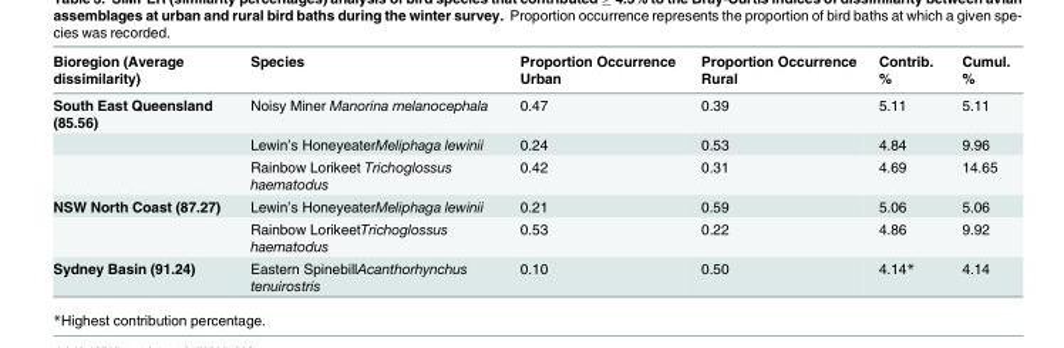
<table><thead><tr><td>Bioregion (Average dissimilarity)</td><td>Species</td><td>Proportion Occurrence Urban</td><td>Proportion Occurrence Rural</td><td>Contrib. %</td><td>Cumul. %</td></tr></thead><tbody><tr><td rowspan="3">South East Queensland (85.56)</td><td>Noisy Miner Manorina melanocephala</td><td>0.47</td><td>0.39</td><td>5.11</td><td>5.11</td></tr><tr><td>Lewin’s HoneyeaterMeliphaga lewinii</td><td>0.24</td><td>0.53</td><td>4.84</td><td>9.96</td></tr><tr><td>Rainbow Lorikeet Trichoglossus haematodus</td><td>0.42</td><td>0.31</td><td>4.69</td><td>14.65</td></tr><tr><td rowspan="2">NSW North Coast (87.27)</td><td>Lewin’s HoneyeaterMeliphaga lewinii</td><td>0.21</td><td>0.59</td><td>5.06</td><td>5.06</td></tr><tr><td>Rainbow LorikeetTrichoglossus haematodus</td><td>0.53</td><td>0.22</td><td>4.86</td><td>9.92</td></tr><tr><td>Sydney Basin (91.24)</td><td>Eastern SpinebillAcanthorhynchus tenuirostris</td><td>0.10</td><td>0.50</td><td>4.14*</td><td>4.14</td></tr></tbody></table>